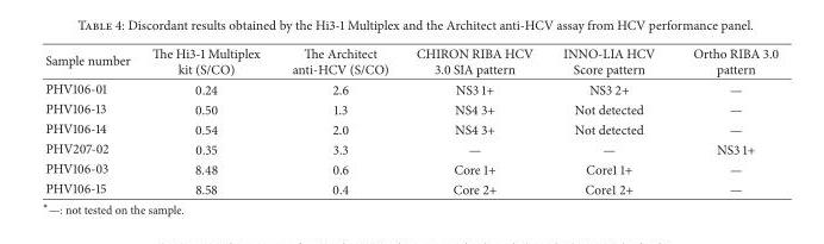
<table><thead><tr><td>Sample number</td><td>The Hi3-1 Multiplex kit (S/CO)</td><td>The Architect anti-HCV (S/CO)</td><td>CHIRON RIBA HCV 3.0 SIA pattern</td><td>INNO-LIA HCV Score pattern</td><td>Ortho RIBA 3.0 pattern</td></tr></thead><tbody><tr><td>PHV106-01</td><td>0.24</td><td>2.6</td><td>NS3 1+</td><td>NS3 2+</td><td>—</td></tr><tr><td>PHV106-13</td><td>0.50</td><td>1.3</td><td>NS4 3+</td><td>Not detected</td><td>—</td></tr><tr><td>PHV106-14</td><td>0.54</td><td>2.0</td><td>NS4 3+</td><td>Not detected</td><td>—</td></tr><tr><td>PHV207-02</td><td>0.35</td><td>3.3</td><td>—</td><td>—</td><td>NS3 1+</td></tr><tr><td>PHV106-03</td><td>8.48</td><td>0.6</td><td>Core 1+</td><td>Core1 1+</td><td>—</td></tr><tr><td>PHV106-15</td><td>8.58</td><td>0.4</td><td>Core 2+</td><td>Core1 2+</td><td>—</td></tr></tbody></table>